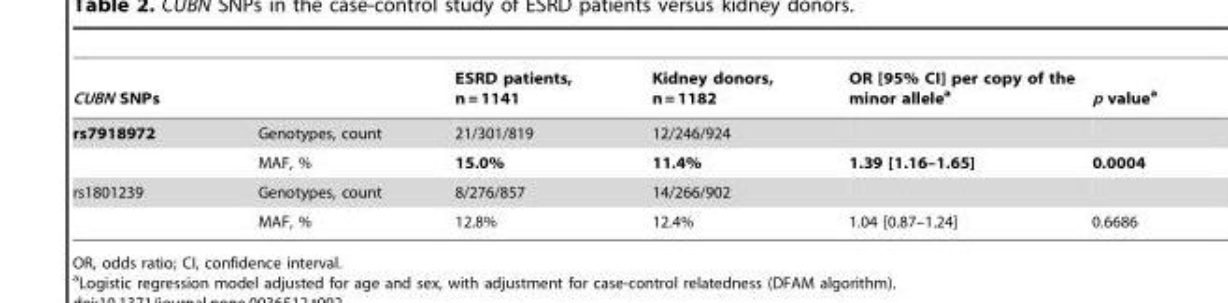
<table><thead><tr><td colspan="2">CUBN SNPs</td><td rowspan="2">ESRD patients, n = 1141 21/301/819</td><td rowspan="2">Kidney donors, n = 1182 12/246/924</td><td rowspan="2">OR [95% CI] per copy of the minor allele<sup>a</sup></td><td rowspan="2">p value<sup>a</sup></td></tr><tr><td>rs7918972</td><td>Genotypes, count</td></tr></thead><tbody><tr><td></td><td>MAF, %</td><td>15.0%</td><td>11.4%</td><td>1.39 [1.16–1.65]</td><td>0.0004</td></tr><tr><td rowspan="2">rs1801239</td><td>Genotypes, count</td><td>8/276/857</td><td>14/266/902</td><td></td><td></td></tr><tr><td>MAF, %</td><td>12.8%</td><td>12.4%</td><td>1.04 [0.87–1.24]</td><td>0.6686</td></tr></tbody></table>